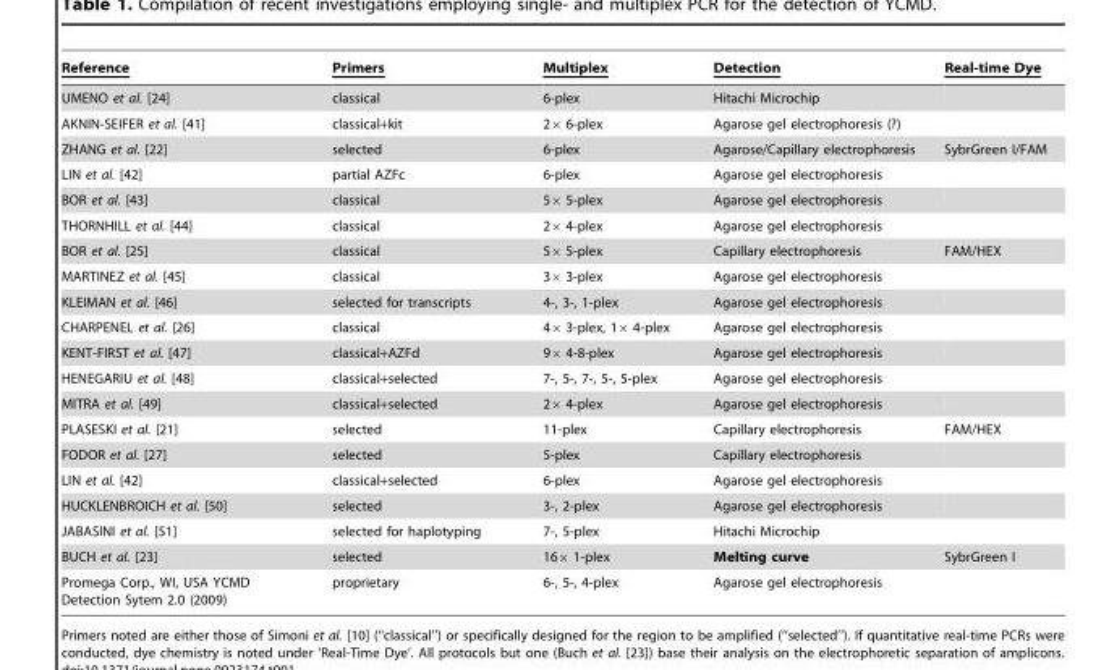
<table><thead><tr><td>Reference</td><td>Primers</td><td>Multiplex</td><td>Detection</td><td>Real-time Dye</td></tr></thead><tbody><tr><td>UMENO et al. [24]</td><td>classical</td><td>6-plex</td><td>Hitachi Microchip</td><td></td></tr><tr><td>AKNIN-SEIFER et al. [41]</td><td>classical+kit</td><td>2× 6-plex</td><td>Agarose gel electrophoresis (?)</td><td></td></tr><tr><td>ZHANG et al. [22]</td><td>selected</td><td>6-plex</td><td>Agarose/Capillary electrophoresis</td><td>SybrGreen I/FAM</td></tr><tr><td>LIN et al. [42]</td><td>partial AZFc</td><td>6-plex</td><td>Agarose gel electrophoresis</td><td></td></tr><tr><td>BOR et al. [43]</td><td>classical</td><td>5× 5-plex</td><td>Agarose gel electrophoresis</td><td></td></tr><tr><td>THORNHILL et al. [44]</td><td>classical</td><td>2× 4-plex</td><td>Agarose gel electrophoresis</td><td></td></tr><tr><td>BOR et al. [25]</td><td>classical</td><td>5× 5-plex</td><td>Capillary electrophoresis</td><td>FAM/HEX</td></tr><tr><td>MARTINEZ et al. [45]</td><td>classical</td><td>3× 3-plex</td><td>Agarose gel electrophoresis</td><td></td></tr><tr><td>KLEIMAN et al. [46]</td><td>selected for transcripts</td><td>4-, 3-, 1-plex</td><td>Agarose gel electrophoresis</td><td></td></tr><tr><td>CHARPENEL et al. [26]</td><td>classical</td><td>4× 3-plex, 1× 4-plex</td><td>Agarose gel electrophoresis</td><td></td></tr><tr><td>KENT-FIRST et al. [47]</td><td>classical+AZFd</td><td>9× 4-8-plex</td><td>Agarose gel electrophoresis</td><td></td></tr><tr><td>HENEGARIU et al. [48]</td><td>classical+selected</td><td>7-, 5-, 7-, 5-, 5-plex</td><td>Agarose gel electrophoresis</td><td></td></tr><tr><td>MITRA et al. [49]</td><td>classical+selected</td><td>2× 4-plex</td><td>Agarose gel electrophoresis</td><td></td></tr><tr><td>PLASESKI et al. [21]</td><td>selected</td><td>11-plex</td><td>Capillary electrophoresis</td><td>FAM/HEX</td></tr><tr><td>FODOR et al. [27]</td><td>selected</td><td>5-plex</td><td>Capillary electrophoresis</td><td></td></tr><tr><td>LIN et al. [42]</td><td>classical+selected</td><td>6-plex</td><td>Agarose gel electrophoresis</td><td></td></tr><tr><td>HUCKLENBROICH et al. [50]</td><td>selected</td><td>3-, 2-plex</td><td>Agarose gel electrophoresis</td><td></td></tr><tr><td>JABASINI et al. [51]</td><td>selected for haplotyping</td><td>7-, 5-plex</td><td>Hitachi Microchip</td><td></td></tr><tr><td>BUCH et al. [23]</td><td>selected</td><td>16× 1-plex</td><td>Melting curve</td><td>SybrGreen I</td></tr><tr><td>Promega Corp., WI, USA YCMD Detection Sytem 2.0 (2009)</td><td>proprietary</td><td>6-, 5-, 4-plex</td><td>Agarose gel electrophoresis</td><td></td></tr></tbody></table>